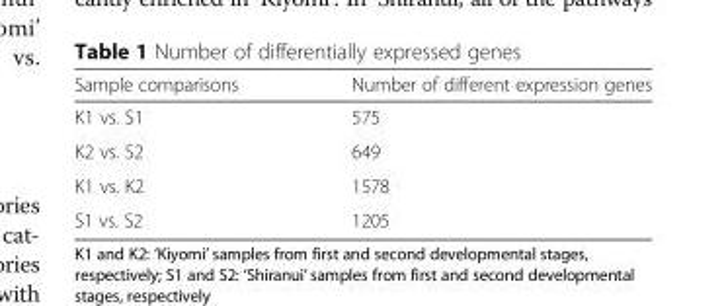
<table><thead><tr><td>Sample comparisons</td><td>Number of different expression genes</td></tr></thead><tbody><tr><td>K1 vs. S1</td><td>575</td></tr><tr><td>K2 vs. S2</td><td>649</td></tr><tr><td>K1 vs. K2</td><td>1578</td></tr><tr><td>S1 vs. S2</td><td>1205</td></tr></tbody></table>